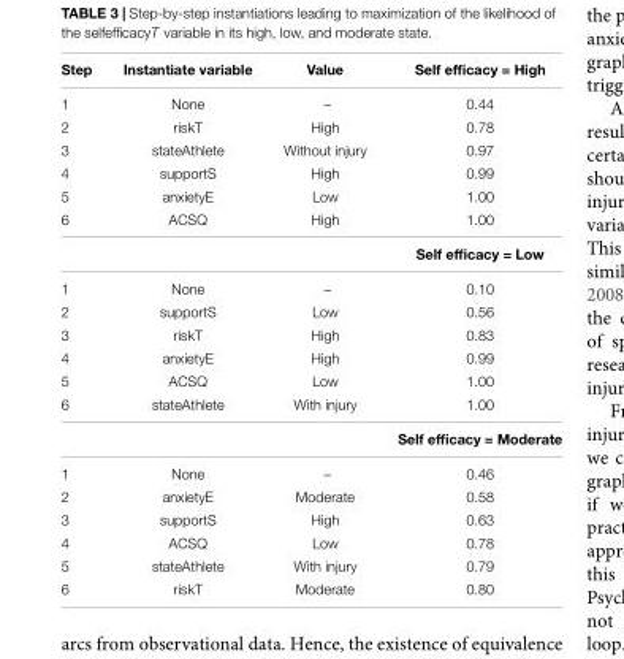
<table><thead><tr><td>Step</td><td>Instantiate variable</td><td>Value</td><td>Self efficacy = High</td></tr></thead><tbody><tr><td>1</td><td>None</td><td>–</td><td>0.44</td></tr><tr><td>2</td><td>riskT</td><td>High</td><td>0.78</td></tr><tr><td>3</td><td>stateAthlete</td><td>Without injury</td><td>0.97</td></tr><tr><td>4</td><td>supportS</td><td>High</td><td>0.99</td></tr><tr><td>5</td><td>anxietyE</td><td>Low</td><td>1.00</td></tr><tr><td rowspan="2">6</td><td>ACSQ</td><td>High</td><td>1.00</td></tr><tr><td></td><td></td><td>Self efficacy = Low</td></tr><tr><td>1</td><td>None</td><td>–</td><td>0.10</td></tr><tr><td>2</td><td>supportS</td><td>Low</td><td>0.56</td></tr><tr><td>3</td><td>riskT</td><td>High</td><td>0.83</td></tr><tr><td>4</td><td>anxietyE</td><td>High</td><td>0.99</td></tr><tr><td>5</td><td>ACSQ</td><td>Low</td><td>1.00</td></tr><tr><td rowspan="2">6</td><td>stateAthlete</td><td>With injury</td><td>1.00</td></tr><tr><td></td><td></td><td>Self efficacy = Moderate</td></tr><tr><td>1</td><td>None</td><td>–</td><td>0.46</td></tr><tr><td>2</td><td>anxietyE</td><td>Moderate</td><td>0.58</td></tr><tr><td>3</td><td>supportS</td><td>High</td><td>0.63</td></tr><tr><td>4</td><td>ACSQ</td><td>Low</td><td>0.78</td></tr><tr><td>5</td><td>stateAthlete</td><td>With injury</td><td>0.79</td></tr><tr><td>6</td><td>riskT</td><td>Moderate</td><td>0.80</td></tr></tbody></table>